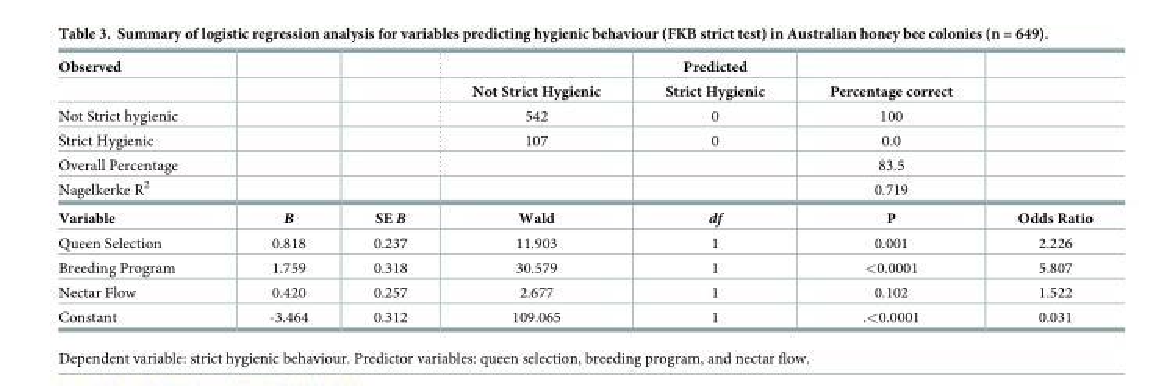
<table><thead><tr><td rowspan="2">Observed</td><td rowspan="2"></td><td rowspan="2"></td><td rowspan="2">Not Strict Hygienic</td><td rowspan="2">Predicted Strict Hygienic</td><td rowspan="2">Percentage correct</td><td rowspan="2"></td></tr><tr></tr></thead><tbody><tr><td>Not Strict hygienic</td><td></td><td></td><td>542</td><td>0</td><td>100</td><td></td></tr><tr><td>Strict Hygienic</td><td></td><td></td><td>107</td><td>0</td><td>0.0</td><td></td></tr><tr><td>Overall Percentage</td><td></td><td></td><td></td><td></td><td>83.5</td><td></td></tr><tr><td>Nagelkerke R<sup>2</sup></td><td></td><td></td><td></td><td></td><td>0.719</td><td></td></tr><tr><td>Variable</td><td>B</td><td>SE B</td><td>Wald</td><td>df</td><td>P</td><td>Odds Ratio</td></tr><tr><td>Queen Selection</td><td>0.818</td><td>0.237</td><td>11.903</td><td>1</td><td>0.001</td><td>2.226</td></tr><tr><td>Breeding Program</td><td>1.759</td><td>0.318</td><td>30.579</td><td>1</td><td>&lt;0.0001</td><td>5.807</td></tr><tr><td>Nectar Flow</td><td>0.420</td><td>0.257</td><td>2.677</td><td>1</td><td>0.102</td><td>1.522</td></tr><tr><td>Constant</td><td>-3.464</td><td>0.312</td><td>109.065</td><td>1</td><td>.&lt;0.0001</td><td>0.031</td></tr></tbody></table>